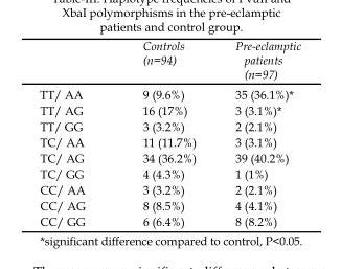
<table><thead><tr><td></td><td>Controls (n=94)</td><td>Pre-eclamptic patients (n=97)</td></tr></thead><tbody><tr><td>TT/ AA</td><td>9 (9.6%)</td><td>35 (36.1%)*</td></tr><tr><td>TT/ AG</td><td>16 (17%)</td><td>3 (3.1%)*</td></tr><tr><td>TT/ GG</td><td>3 (3.2%)</td><td>2 (2.1%)</td></tr><tr><td>TC/ AA</td><td>11 (11.7%)</td><td>3 (3.1%)</td></tr><tr><td>TC/ AG</td><td>34 (36.2%)</td><td>39 (40.2%)</td></tr><tr><td>TC/ GG</td><td>4 (4.3%)</td><td>1 (1%)</td></tr><tr><td>CC/ AA</td><td>3 (3.2%)</td><td>2 (2.1%)</td></tr><tr><td>CC/ AG</td><td>8 (8.5%)</td><td>4 (4.1%)</td></tr><tr><td>CC/ GG</td><td>6 (6.4%)</td><td>8 (8.2%)</td></tr></tbody></table>